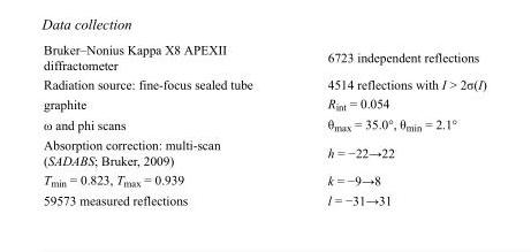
<table><tbody><tr><td>Bruker–Nonius Kappa X8 APEXII diffractometer</td><td>6723 independent reflections</td></tr><tr><td>Radiation source: fine-focus sealed tube</td><td>4514 reflections with I &gt; 2σ(I)</td></tr><tr><td>graphite</td><td>R<sub>int</sub> = 0.054</td></tr><tr><td>ω and phi scans</td><td>θ<sub>max</sub> = 35.0°, θ<sub>min</sub> = 2.1°</td></tr><tr><td>Absorption correction: multi-scan (SADABS; Bruker, 2009)</td><td>h = −22→22</td></tr><tr><td>T<sub>min</sub> = 0.823, T<sub>max</sub> = 0.939</td><td>k = −9→8</td></tr><tr><td>59573 measured reflections</td><td>l = −31→31</td></tr></tbody></table>